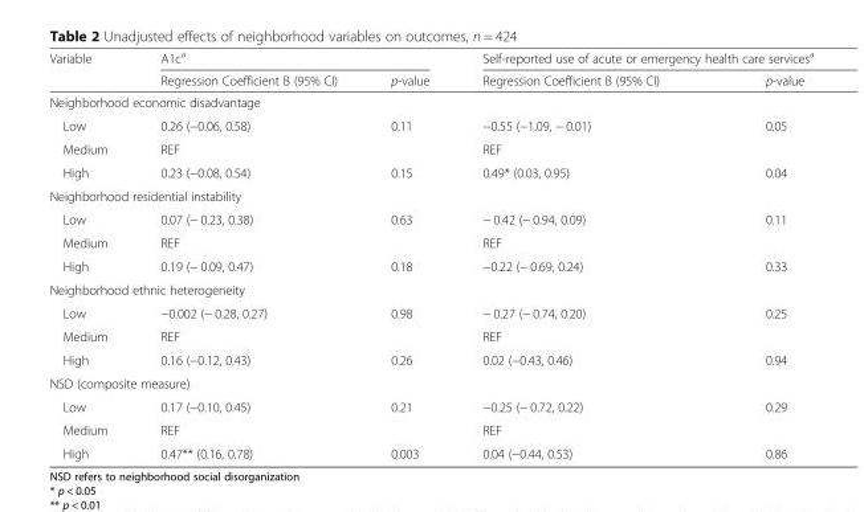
<table><thead><tr><td rowspan="2">Variable</td><td colspan="2">A1c<sup>a</sup></td><td colspan="2">Self-reported use of acute or emergency health care services<sup>a</sup></td></tr><tr><td>Regression Coefficient B (95% CI)</td><td>p-value</td><td>Regression Coefficient B (95% CI)</td><td>p-value</td></tr></thead><tbody><tr><td colspan="5">Neighborhood economic disadvantage</td></tr><tr><td>Low</td><td>0.26 (−0.06, 0.58)</td><td>0.11</td><td>−0.55 (−1.09, − 0.01)</td><td>0.05</td></tr><tr><td>Medium</td><td>REF</td><td></td><td>REF</td><td></td></tr><tr><td>High</td><td>0.23 (−0.08, 0.54)</td><td>0.15</td><td>0.49* (0.03, 0.95)</td><td>0.04</td></tr><tr><td colspan="5">Neighborhood residential instability</td></tr><tr><td>Low</td><td>0.07 (− 0.23, 0.38)</td><td>0.63</td><td>− 0.42 (− 0.94, 0.09)</td><td>0.11</td></tr><tr><td>Medium</td><td>REF</td><td></td><td>REF</td><td></td></tr><tr><td>High</td><td>0.19 (− 0.09, 0.47)</td><td>0.18</td><td>−0.22 (− 0.69, 0.24)</td><td>0.33</td></tr><tr><td colspan="5">Neighborhood ethnic heterogeneity</td></tr><tr><td>Low</td><td>−0.002 (− 0.28, 0.27)</td><td>0.98</td><td>− 0.27 (− 0.74, 0.20)</td><td>0.25</td></tr><tr><td>Medium</td><td>REF</td><td></td><td>REF</td><td></td></tr><tr><td>High</td><td>0.16 (−0.12, 0.43)</td><td>0.26</td><td>0.02 (−0.43, 0.46)</td><td>0.94</td></tr><tr><td colspan="5">NSD (composite measure)</td></tr><tr><td>Low</td><td>0.17 (−0.10, 0.45)</td><td>0.21</td><td>−0.25 (− 0.72, 0.22)</td><td>0.29</td></tr><tr><td>Medium</td><td>REF</td><td></td><td>REF</td><td></td></tr><tr><td>High</td><td>0.47** (0.16, 0.78)</td><td>0.003</td><td>0.04 (−0.44, 0.53)</td><td>0.86</td></tr></tbody></table>